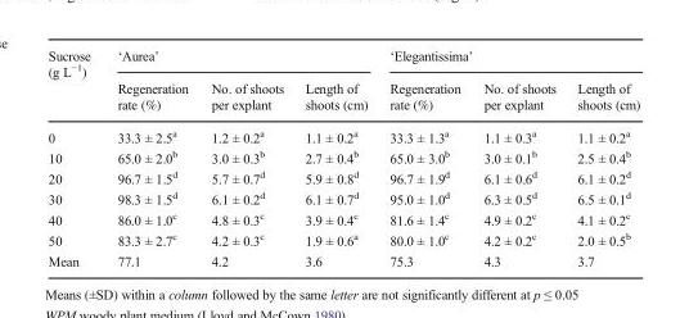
<table><thead><tr><td rowspan="2">Sucrose (g L<sup>−1</sup>)</td><td colspan="3">‘Aurea’</td><td colspan="3">‘Elegantissima’</td></tr><tr><td>Regeneration rate (%)</td><td>No. of shoots per explant</td><td>Length of shoots (cm)</td><td>Regeneration rate (%)</td><td>No. of shoots per explant</td><td>Length of shoots (cm)</td></tr></thead><tbody><tr><td>0</td><td>33.3 ± 2.5<sup>a</sup></td><td>1.2 ± 0.2<sup>a</sup></td><td>1.1 ± 0.2<sup>a</sup></td><td>33.3 ± 1.3<sup>a</sup></td><td>1.1 ± 0.3<sup>a</sup></td><td>1.1 ± 0.2<sup>a</sup></td></tr><tr><td>10</td><td>65.0 ± 2.0<sup>b</sup></td><td>3.0 ± 0.3<sup>b</sup></td><td>2.7 ± 0.4<sup>b</sup></td><td>65.0 ± 3.0<sup>b</sup></td><td>3.0 ± 0.1<sup>b</sup></td><td>2.5 ± 0.4<sup>b</sup></td></tr><tr><td>20</td><td>96.7 ± 1.5<sup>d</sup></td><td>5.7 ± 0.7<sup>d</sup></td><td>5.9 ± 0.8<sup>d</sup></td><td>96.7 ± 1.9<sup>d</sup></td><td>6.1 ± 0.6<sup>d</sup></td><td>6.1 ± 0.2<sup>d</sup></td></tr><tr><td>30</td><td>98.3 ± 1.5<sup>d</sup></td><td>6.1 ± 0.2<sup>d</sup></td><td>6.1 ± 0.7<sup>d</sup></td><td>95.0 ± 1.0<sup>d</sup></td><td>6.3 ± 0.5<sup>d</sup></td><td>6.5 ± 0.1<sup>d</sup></td></tr><tr><td>40</td><td>86.0 ± 1.0<sup>c</sup></td><td>4.8 ± 0.3<sup>c</sup></td><td>3.9 ± 0.4<sup>c</sup></td><td>81.6 ± 1.4<sup>c</sup></td><td>4.9 ± 0.2<sup>c</sup></td><td>4.1 ± 0.2<sup>c</sup></td></tr><tr><td>50</td><td>83.3 ± 2.7<sup>c</sup></td><td>4.2 ± 0.3<sup>c</sup></td><td>1.9 ± 0.6<sup>a</sup></td><td>80.0 ± 1.0<sup>c</sup></td><td>4.2 ± 0.2<sup>c</sup></td><td>2.0 ± 0.5<sup>b</sup></td></tr><tr><td>Mean</td><td>77.1</td><td>4.2</td><td>3.6</td><td>75.3</td><td>4.3</td><td>3.7</td></tr></tbody></table>